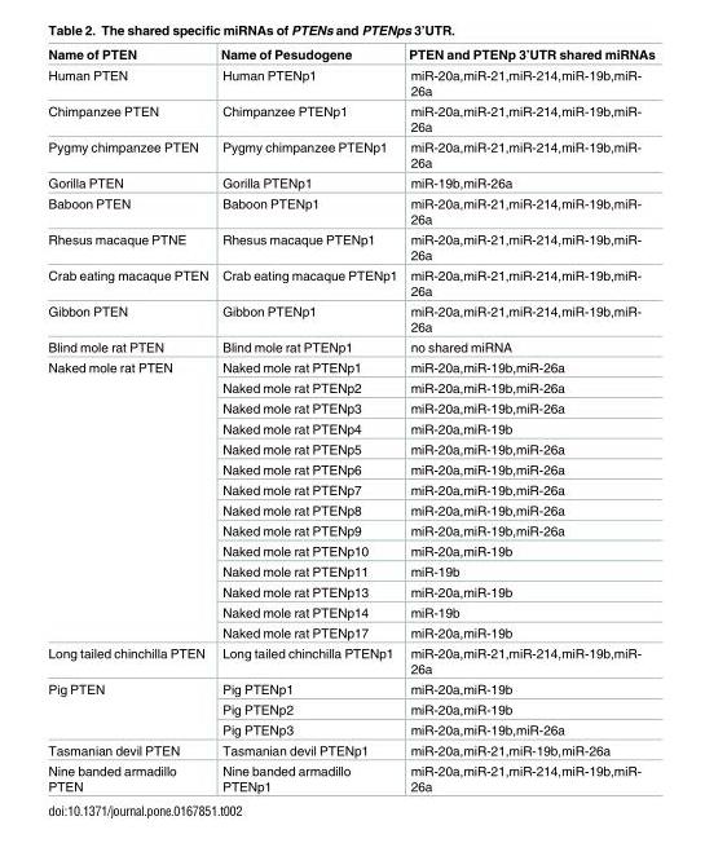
<table><thead><tr><td>Name of PTEN</td><td>Name of Pesudogene</td><td>PTEN and PTENp 3’UTR shared miRNAs</td></tr></thead><tbody><tr><td>Human PTEN</td><td>Human PTENp1</td><td>miR-20a,miR-21,miR-214,miR-19b,miR- 26a</td></tr><tr><td>Chimpanzee PTEN</td><td>Chimpanzee PTENp1</td><td>miR-20a,miR-21,miR-214,miR-19b,miR- 26a</td></tr><tr><td>Pygmy chimpanzee PTEN</td><td>Pygmy chimpanzee PTENp1</td><td>miR-20a,miR-21,miR-214,miR-19b,miR- 26a</td></tr><tr><td>Gorilla PTEN</td><td>Gorilla PTENp1</td><td>miR-19b,miR-26a</td></tr><tr><td>Baboon PTEN</td><td>Baboon PTENp1</td><td>miR-20a,miR-21,miR-214,miR-19b,miR- 26a</td></tr><tr><td>Rhesus macaque PTNE</td><td>Rhesus macaque PTENp1</td><td>miR-20a,miR-21,miR-214,miR-19b,miR- 26a</td></tr><tr><td>Crab eating macaque PTEN</td><td>Crab eating macaque PTENp1</td><td>miR-20a,miR-21,miR-214,miR-19b,miR- 26a</td></tr><tr><td>Gibbon PTEN</td><td>Gibbon PTENp1</td><td>miR-20a,miR-21,miR-214,miR-19b,miR- 26a</td></tr><tr><td>Blind mole rat PTEN</td><td>Blind mole rat PTENp1</td><td>no shared miRNA</td></tr><tr><td rowspan="14">Naked mole rat PTEN</td><td>Naked mole rat PTENp1</td><td>miR-20a,miR-19b,miR-26a</td></tr><tr><td>Naked mole rat PTENp2</td><td>miR-20a,miR-19b,miR-26a</td></tr><tr><td>Naked mole rat PTENp3</td><td>miR-20a,miR-19b,miR-26a</td></tr><tr><td>Naked mole rat PTENp4</td><td>miR-20a,miR-19b</td></tr><tr><td>Naked mole rat PTENp5</td><td>miR-20a,miR-19b,miR-26a</td></tr><tr><td>Naked mole rat PTENp6</td><td>miR-20a,miR-19b,miR-26a</td></tr><tr><td>Naked mole rat PTENp7</td><td>miR-20a,miR-19b,miR-26a</td></tr><tr><td>Naked mole rat PTENp8</td><td>miR-20a,miR-19b,miR-26a</td></tr><tr><td>Naked mole rat PTENp9</td><td>miR-20a,miR-19b,miR-26a</td></tr><tr><td>Naked mole rat PTENp10</td><td>miR-20a,miR-19b</td></tr><tr><td>Naked mole rat PTENp11</td><td>miR-19b</td></tr><tr><td>Naked mole rat PTENp13</td><td>miR-20a,miR-19b</td></tr><tr><td>Naked mole rat PTENp14</td><td>miR-19b</td></tr><tr><td>Naked mole rat PTENp17</td><td>miR-20a,miR-19b</td></tr><tr><td>Long tailed chinchilla PTEN</td><td>Long tailed chinchilla PTENp1</td><td>miR-20a,miR-21,miR-214,miR-19b,miR- 26a</td></tr><tr><td rowspan="3">Pig PTEN</td><td>Pig PTENp1</td><td>miR-20a,miR-19b</td></tr><tr><td>Pig PTENp2</td><td>miR-20a,miR-19b</td></tr><tr><td>Pig PTENp3</td><td>miR-20a,miR-19b,miR-26a</td></tr><tr><td>Tasmanian devil PTEN</td><td>Tasmanian devil PTENp1</td><td>miR-20a,miR-21,miR-19b,miR-26a</td></tr><tr><td>Nine banded armadillo PTEN</td><td>Nine banded armadillo PTENp1</td><td>miR-20a,miR-21,miR-214,miR-19b,miR- 26a</td></tr></tbody></table>